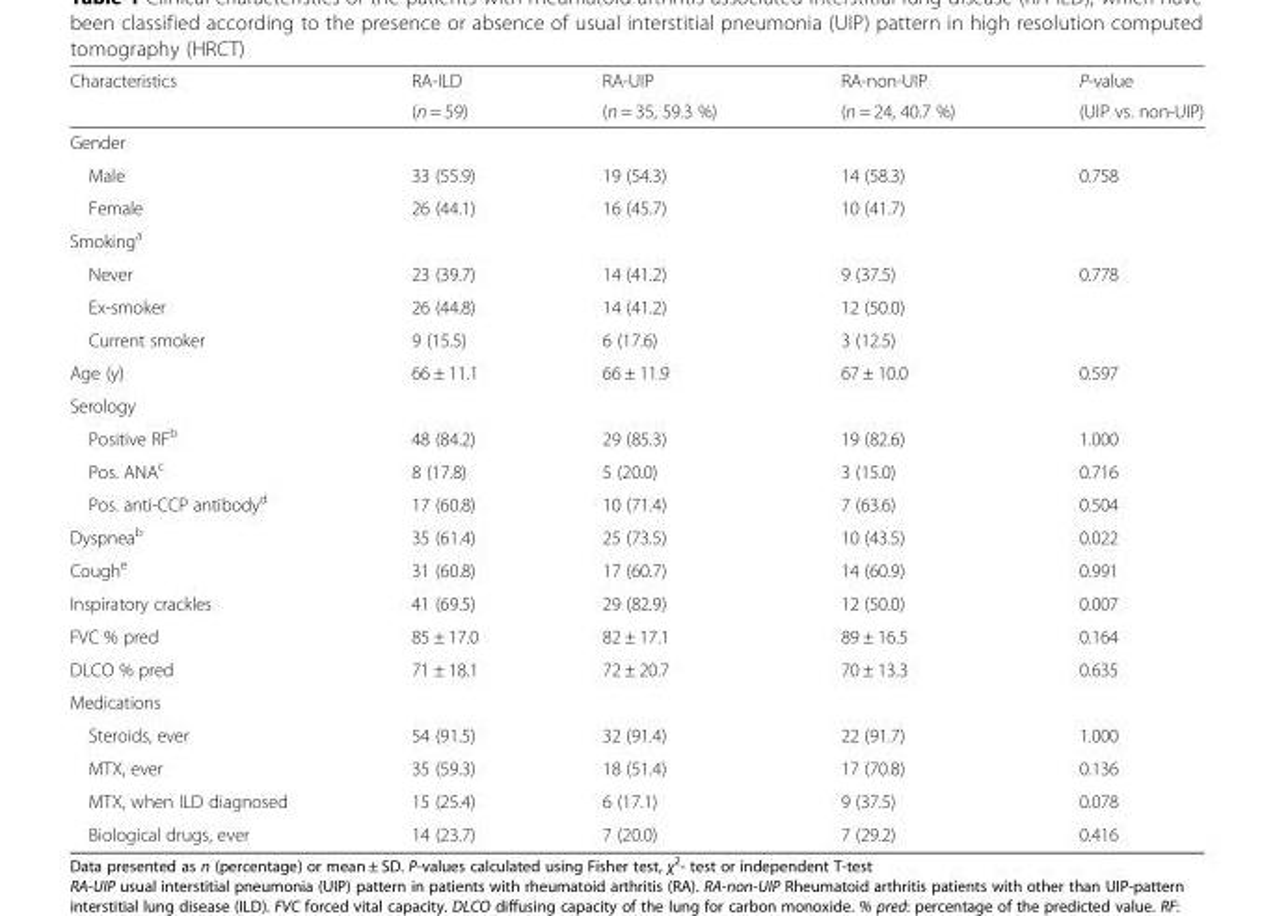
<table><thead><tr><td rowspan="2">Characteristics</td><td rowspan="2">RA-ILD (n = 59)</td><td rowspan="2">RA-UIP (n = 35, 59.3 %)</td><td rowspan="2">RA-non-UIP (n = 24, 40.7 %)</td><td rowspan="2">P-value (UIP vs. non-UIP)</td></tr><tr></tr></thead><tbody><tr><td colspan="5">Gender</td></tr><tr><td>Male</td><td>33 (55.9)</td><td>19 (54.3)</td><td>14 (58.3)</td><td>0.758</td></tr><tr><td>Female</td><td>26 (44.1)</td><td>16 (45.7)</td><td>10 (41.7)</td><td></td></tr><tr><td colspan="5">Smoking<sup>a</sup></td></tr><tr><td>Never</td><td>23 (39.7)</td><td>14 (41.2)</td><td>9 (37.5)</td><td>0.778</td></tr><tr><td>Ex-smoker</td><td>26 (44.8)</td><td>14 (41.2)</td><td>12 (50.0)</td><td></td></tr><tr><td>Current smoker</td><td>9 (15.5)</td><td>6 (17.6)</td><td>3 (12.5)</td><td></td></tr><tr><td>Age (y)</td><td>66 ± 11.1</td><td>66 ± 11.9</td><td>67 ± 10.0</td><td>0.597</td></tr><tr><td colspan="5">Serology</td></tr><tr><td>Positive RFb</td><td>48 (84.2)</td><td>29 (85.3)</td><td>19 (82.6)</td><td>1.000</td></tr><tr><td>Pos. ANAc</td><td>8 (17.8)</td><td>5 (20.0)</td><td>3 (15.0)</td><td>0.716</td></tr><tr><td>Pos. anti-CCP antibodyd</td><td>17 (60.8)</td><td>10 (71.4)</td><td>7 (63.6)</td><td>0.504</td></tr><tr><td>Dyspnea<sup>b</sup></td><td>35 (61.4)</td><td>25 (73.5)</td><td>10 (43.5)</td><td>0.022</td></tr><tr><td>Cough<sup>e</sup></td><td>31 (60.8)</td><td>17 (60.7)</td><td>14 (60.9)</td><td>0.991</td></tr><tr><td>Inspiratory crackles</td><td>41 (69.5)</td><td>29 (82.9)</td><td>12 (50.0)</td><td>0.007</td></tr><tr><td>FVC % pred</td><td>85 ± 17.0</td><td>82 ± 17.1</td><td>89 ± 16.5</td><td>0.164</td></tr><tr><td>DLCO % pred</td><td>71 ± 18.1</td><td>72 ± 20.7</td><td>70 ± 13.3</td><td>0.635</td></tr><tr><td colspan="5">Medications</td></tr><tr><td>Steroids, ever</td><td>54 (91.5)</td><td>32 (91.4)</td><td>22 (91.7)</td><td>1.000</td></tr><tr><td>MTX, ever</td><td>35 (59.3)</td><td>18 (51.4)</td><td>17 (70.8)</td><td>0.136</td></tr><tr><td>MTX, when ILD diagnosed</td><td>15 (25.4)</td><td>6 (17.1)</td><td>9 (37.5)</td><td>0.078</td></tr><tr><td>Biological drugs, ever</td><td>14 (23.7)</td><td>7 (20.0)</td><td>7 (29.2)</td><td>0.416</td></tr></tbody></table>